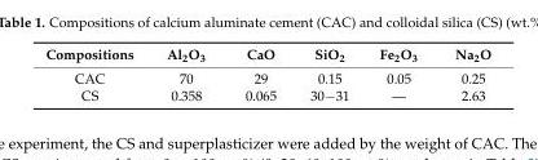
<table><thead><tr><td>Compositions</td><td>Al<sub>2</sub>O<sub>3</sub></td><td>CaO</td><td>SiO<sub>2</sub></td><td>Fe<sub>2</sub>O<sub>3</sub></td><td>Na<sub>2</sub>O</td></tr></thead><tbody><tr><td>CAC</td><td>70</td><td>29</td><td>0.15</td><td>0.05</td><td>0.25</td></tr><tr><td>CS</td><td>0.358</td><td>0.065</td><td>30−31</td><td>—</td><td>2.63</td></tr></tbody></table>